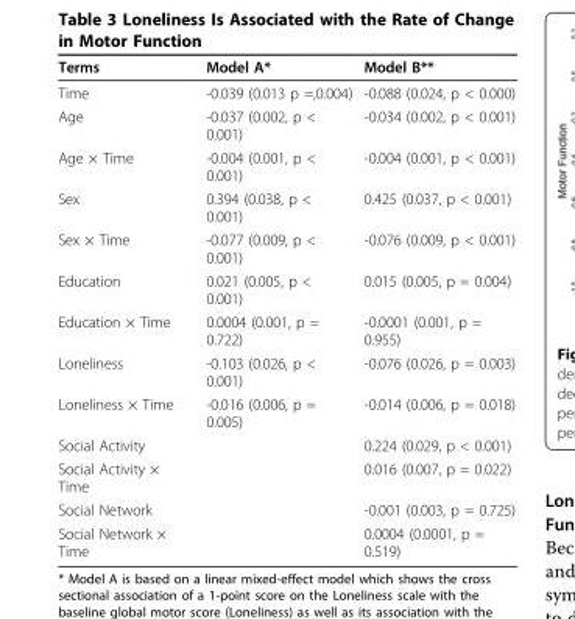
<table><thead><tr><td>Terms</td><td>Model A*</td><td>Model B**</td></tr></thead><tbody><tr><td>Time</td><td>-0.039 (0.013 p =,0.004)</td><td>-0.088 (0.024, p &lt; 0.000)</td></tr><tr><td>Age</td><td>-0.037 (0.002, p &lt; 0.001)</td><td>-0.034 (0.002, p &lt; 0.001)</td></tr><tr><td>Age × Time</td><td>-0.004 (0.001, p &lt; 0.001)</td><td>-0.004 (0.001, p &lt; 0.001)</td></tr><tr><td>Sex</td><td>0.394 (0.038, p &lt; 0.001)</td><td>0.425 (0.037, p &lt; 0.001)</td></tr><tr><td>Sex × Time</td><td>-0.077 (0.009, p &lt; 0.001)</td><td>-0.076 (0.009, p &lt; 0.001)</td></tr><tr><td>Education</td><td>0.021 (0.005, p &lt; 0.001)</td><td>0.015 (0.005, p = 0.004)</td></tr><tr><td>Education × Time</td><td>0.0004 (0.001, p = 0.722)</td><td>-0.0001 (0.001, p = 0.955)</td></tr><tr><td>Loneliness</td><td>-0.103 (0.026, p &lt; 0.001)</td><td>-0.076 (0.026, p = 0.003)</td></tr><tr><td>Loneliness × Time</td><td>-0.016 (0.006, p = 0.005)</td><td>-0.014 (0.006, p = 0.018)</td></tr><tr><td>Social Activity</td><td></td><td>0.224 (0.029, p &lt; 0.001)</td></tr><tr><td>Social Activity × Time</td><td></td><td>0.016 (0.007, p = 0.022)</td></tr><tr><td>Social Network</td><td></td><td>-0.001 (0.003, p = 0.725)</td></tr><tr><td>Social Network × Time</td><td></td><td>0.0004 (0.0001, p = 0.519)</td></tr></tbody></table>